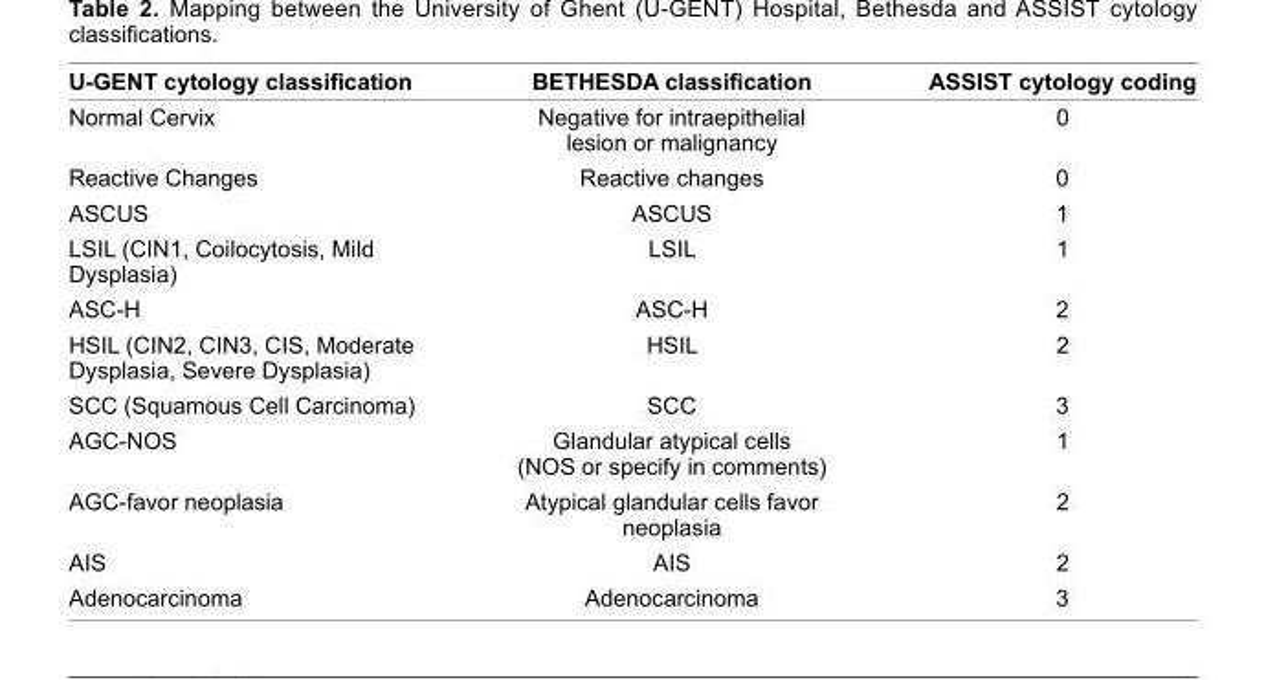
<table><thead><tr><td>U-GENT cytology classifi cation</td><td>BETHESDA classifi cation</td><td>ASSIST cytology coding</td></tr></thead><tbody><tr><td>Normal Cervix</td><td>Negative for intraepithelial lesion or malignancy</td><td>0</td></tr><tr><td>Reactive Changes</td><td>Reactive changes</td><td>0</td></tr><tr><td>ASCUS</td><td>ASCUS</td><td>1</td></tr><tr><td>LSIL (CIN1, Coilocytosis, Mild Dysplasia)</td><td>LSIL</td><td>1</td></tr><tr><td>ASC-H</td><td>ASC-H</td><td>2</td></tr><tr><td>HSIL (CIN2, CIN3, CIS, Moderate Dysplasia, Severe Dysplasia)</td><td>HSIL</td><td>2</td></tr><tr><td>SCC (Squamous Cell Carcinoma)</td><td>SCC</td><td>3</td></tr><tr><td>AGC-NOS</td><td>Glandular atypical cells (NOS or specify in comments)</td><td>1</td></tr><tr><td>AGC-favor neoplasia</td><td>Atypical glandular cells favor neoplasia</td><td>2</td></tr><tr><td>AIS</td><td>AIS</td><td>2</td></tr><tr><td>Adenocarcinoma</td><td>Adenocarcinoma</td><td>3</td></tr></tbody></table>